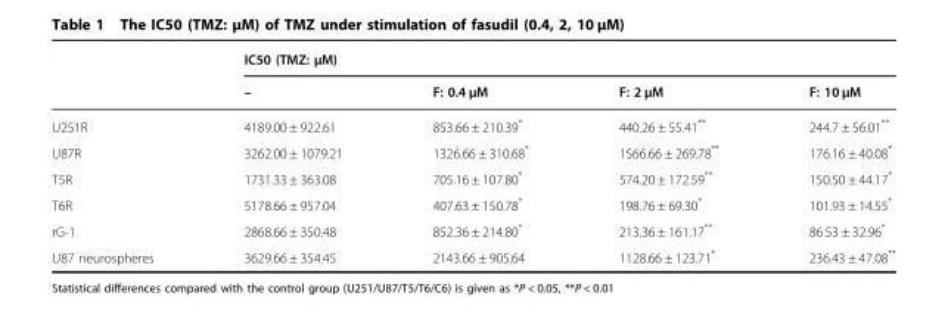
<table><thead><tr><td rowspan="2"></td><td colspan="4">IC50 (TMZ: μM)</td></tr><tr><td>–</td><td>F: 0.4 μM</td><td>F: 2 μM</td><td>F: 10 μM</td></tr></thead><tbody><tr><td>U251R</td><td>4189.00 ± 922.61</td><td>853.66 ± 210.39*</td><td>440.26 ± 55.41**</td><td>244.7 ± 56.01**</td></tr><tr><td>U87R</td><td>3262.00 ± 1079.21</td><td>1326.66 ± 310.68*</td><td>1566.66 ± 269.78**</td><td>176.16 ± 40.08*</td></tr><tr><td>T5R</td><td>1731.33 ± 363.08</td><td>705.16 ± 107.80*</td><td>574.20 ± 172.59**</td><td>150.50 ± 44.17*</td></tr><tr><td>T6R</td><td>5178.66 ± 957.04</td><td>407.63 ± 150.78*</td><td>198.76 ± 69.30*</td><td>101.93 ± 14.55*</td></tr><tr><td>rG-1</td><td>2868.66 ± 350.48</td><td>852.36 ± 214.80*</td><td>213.36 ± 161.17**</td><td>86.53 ± 32.96*</td></tr><tr><td>U87 neurospheres</td><td>3629.66 ± 354.45</td><td>2143.66 ± 905.64</td><td>1128.66 ± 123.71*</td><td>236.43 ± 47.08**</td></tr></tbody></table>